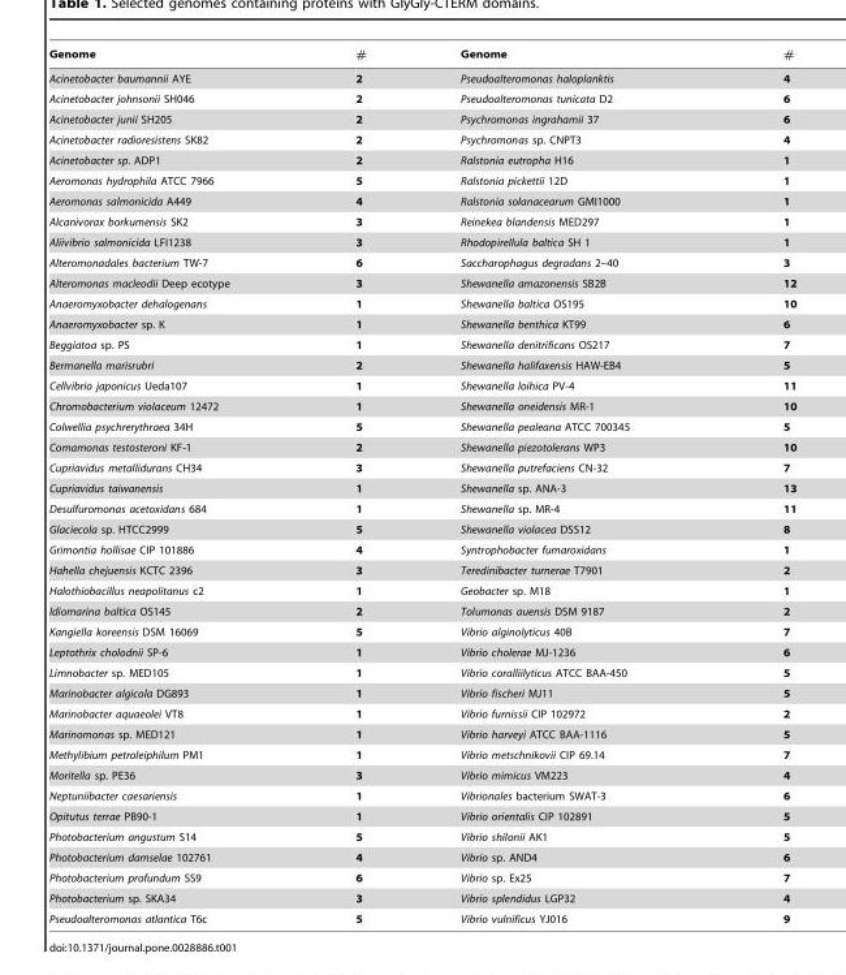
<table><thead><tr><td>Genome</td><td>#</td><td>Genome</td><td>#</td></tr></thead><tbody><tr><td>Acinetobacter baumannii AYE</td><td>2</td><td>Pseudoalteromonas haloplanktis</td><td>4</td></tr><tr><td>Acinetobacter johnsonii SH046</td><td>2</td><td>Pseudoalteromonas tunicata D2</td><td>6</td></tr><tr><td>Acinetobacter junii SH205</td><td>2</td><td>Psychromonas ingrahamii 37</td><td>6</td></tr><tr><td>Acinetobacter radioresistens SK82</td><td>2</td><td>Psychromonas sp. CNPT3</td><td>4</td></tr><tr><td>Acinetobacter sp. ADP1</td><td>2</td><td>Ralstonia eutropha H16</td><td>1</td></tr><tr><td>Aeromonas hydrophila ATCC 7966</td><td>5</td><td>Ralstonia pickettii 12D</td><td>1</td></tr><tr><td>Aeromonas salmonicida A449</td><td>4</td><td>Ralstonia solanacearum GMI1000</td><td>1</td></tr><tr><td>Alcanivorax borkumensis SK2</td><td>3</td><td>Reinekea blandensis MED297</td><td>1</td></tr><tr><td>Aliivibrio salmonicida LFI1238</td><td>3</td><td>Rhodopirellula baltica SH 1</td><td>1</td></tr><tr><td>Alteromonadales bacterium TW-7</td><td>6</td><td>Saccharophagus degradans 2–40</td><td>3</td></tr><tr><td>Alteromonas macleodii Deep ecotype</td><td>3</td><td>Shewanella amazonensis SB2B</td><td>12</td></tr><tr><td>Anaeromyxobacter dehalogenans</td><td>1</td><td>Shewanella baltica OS195</td><td>10</td></tr><tr><td>Anaeromyxobacter sp. K</td><td>1</td><td>Shewanella benthica KT99</td><td>6</td></tr><tr><td>Beggiatoa sp. PS</td><td>1</td><td>Shewanella denitrificans OS217</td><td>7</td></tr><tr><td>Bermanella marisrubri</td><td>2</td><td>Shewanella halifaxensis HAW-EB4</td><td>5</td></tr><tr><td>Cellvibrio japonicus Ueda107</td><td>1</td><td>Shewanella loihica PV-4</td><td>11</td></tr><tr><td>Chromobacterium violaceum 12472</td><td>1</td><td>Shewanella oneidensis MR-1</td><td>10</td></tr><tr><td>Colwellia psychrerythraea 34H</td><td>5</td><td>Shewanella pealeana ATCC 700345</td><td>5</td></tr><tr><td>Comamonas testosteroni KF-1</td><td>2</td><td>Shewanella piezotolerans WP3</td><td>10</td></tr><tr><td>Cupriavidus metallidurans CH34</td><td>3</td><td>Shewanella putrefaciens CN-32</td><td>7</td></tr><tr><td>Cupriavidus taiwanensis</td><td>1</td><td>Shewanella sp. ANA-3</td><td>13</td></tr><tr><td>Desulfuromonas acetoxidans 684</td><td>1</td><td>Shewanella sp. MR-4</td><td>11</td></tr><tr><td>Glaciecola sp. HTCC2999</td><td>5</td><td>Shewanella violacea DSS12</td><td>8</td></tr><tr><td>Grimontia hollisae CIP 101886</td><td>4</td><td>Syntrophobacter fumaroxidans</td><td>1</td></tr><tr><td>Hahella chejuensis KCTC 2396</td><td>3</td><td>Teredinibacter turnerae T7901</td><td>2</td></tr><tr><td>Halothiobacillus neapolitanus c2</td><td>1</td><td>Geobacter sp. M18</td><td>1</td></tr><tr><td>Idiomarina baltica OS145</td><td>2</td><td>Tolumonas auensis DSM 9187</td><td>2</td></tr><tr><td>Kangiella koreensis DSM 16069</td><td>5</td><td>Vibrio alginolyticus 40B</td><td>7</td></tr><tr><td>Leptothrix cholodnii SP-6</td><td>1</td><td>Vibrio cholerae MJ-1236</td><td>6</td></tr><tr><td>Limnobacter sp. MED105</td><td>1</td><td>Vibrio coralliilyticus ATCC BAA-450</td><td>5</td></tr><tr><td>Marinobacter algicola DG893</td><td>1</td><td>Vibrio fischeri MJ11</td><td>5</td></tr><tr><td>Marinobacter aquaeolei VT8</td><td>1</td><td>Vibrio furnissii CIP 102972</td><td>2</td></tr><tr><td>Marinomonas sp. MED121</td><td>1</td><td>Vibrio harveyi ATCC BAA-1116</td><td>5</td></tr><tr><td>Methylibium petroleiphilum PM1</td><td>1</td><td>Vibrio metschnikovii CIP 69.14</td><td>7</td></tr><tr><td>Moritella sp. PE36</td><td>3</td><td>Vibrio mimicus VM223</td><td>4</td></tr><tr><td>Neptuniibacter caesariensis</td><td>1</td><td>Vibrionales bacterium SWAT-3</td><td>6</td></tr><tr><td>Opitutus terrae PB90-1</td><td>1</td><td>Vibrio orientalis CIP 102891</td><td>5</td></tr><tr><td>Photobacterium angustum S14</td><td>5</td><td>Vibrio shilonii AK1</td><td>5</td></tr><tr><td>Photobacterium damselae 102761</td><td>4</td><td>Vibrio sp. AND4</td><td>6</td></tr><tr><td>Photobacterium profundum SS9</td><td>6</td><td>Vibrio sp. Ex25</td><td>7</td></tr><tr><td>Photobacterium sp. SKA34</td><td>3</td><td>Vibrio splendidus LGP32</td><td>4</td></tr><tr><td>Pseudoalteromonas atlantica T6c</td><td>5</td><td>Vibrio vulnificus YJ016</td><td>9</td></tr></tbody></table>